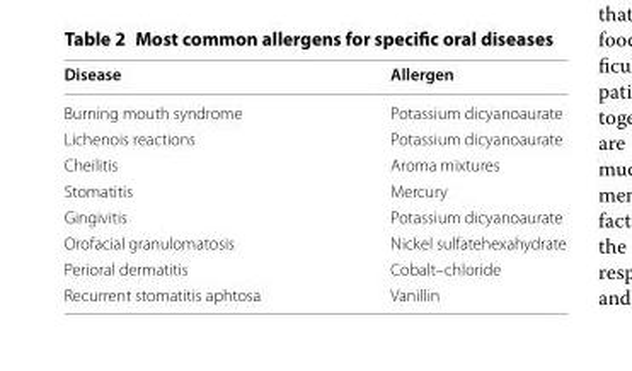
<table><thead><tr><td>Disease</td><td>Allergen</td></tr></thead><tbody><tr><td>Burning mouth syndrome</td><td>Potassium dicyanoaurate</td></tr><tr><td>Lichenois reactions</td><td>Potassium dicyanoaurate</td></tr><tr><td>Cheilitis</td><td>Aroma mixtures</td></tr><tr><td>Stomatitis</td><td>Mercury</td></tr><tr><td>Gingivitis</td><td>Potassium dicyanoaurate</td></tr><tr><td>Orofacial granulomatosis</td><td>Nickel sulfatehexahydrate</td></tr><tr><td>Perioral dermatitis</td><td>Cobalt–chloride</td></tr><tr><td>Recurrent stomatitis aphtosa</td><td>Vanillin</td></tr></tbody></table>